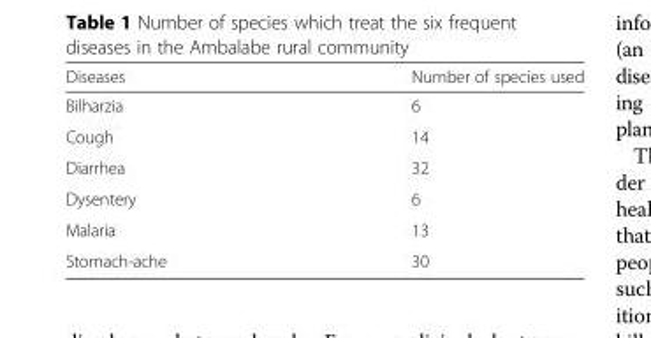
<table><thead><tr><td>Diseases</td><td>Number of species used</td></tr></thead><tbody><tr><td>Bilharzia</td><td>6</td></tr><tr><td>Cough</td><td>14</td></tr><tr><td>Diarrhea</td><td>32</td></tr><tr><td>Dysentery</td><td>6</td></tr><tr><td>Malaria</td><td>13</td></tr><tr><td>Stomach-ache</td><td>30</td></tr></tbody></table>